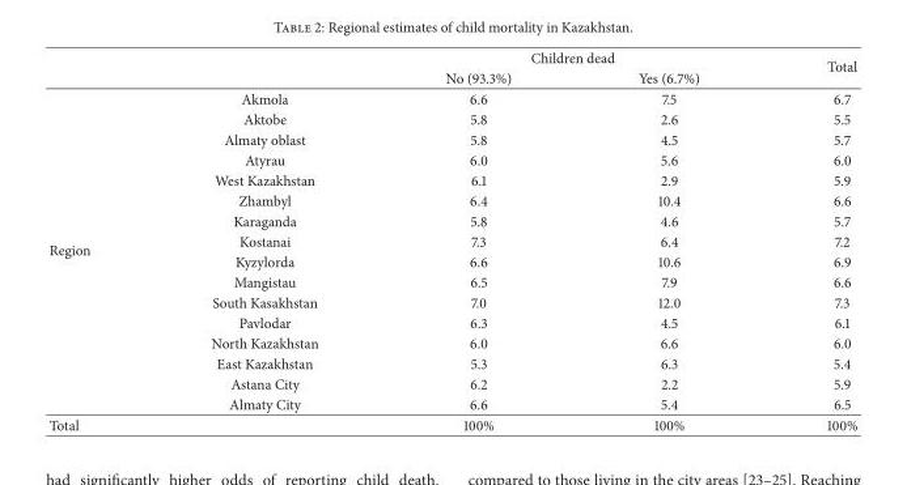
<table><thead><tr><td rowspan="2"></td><td rowspan="2"></td><td colspan="2">Children dead</td><td rowspan="2">Total</td></tr><tr><td>No (93.3%)</td><td>Yes (6.7%)</td></tr></thead><tbody><tr><td rowspan="16">Region</td><td>Akmola</td><td>6.6</td><td>7.5</td><td>6.7</td></tr><tr><td>Aktobe</td><td>5.8</td><td>2.6</td><td>5.5</td></tr><tr><td>Almaty oblast</td><td>5.8</td><td>4.5</td><td>5.7</td></tr><tr><td>Atyrau</td><td>6.0</td><td>5.6</td><td>6.0</td></tr><tr><td>West Kazakhstan</td><td>6.1</td><td>2.9</td><td>5.9</td></tr><tr><td>Zhambyl</td><td>6.4</td><td>10.4</td><td>6.6</td></tr><tr><td>Karaganda</td><td>5.8</td><td>4.6</td><td>5.7</td></tr><tr><td>Kostanai</td><td>7.3</td><td>6.4</td><td>7.2</td></tr><tr><td>Kyzylorda</td><td>6.6</td><td>10.6</td><td>6.9</td></tr><tr><td>Mangistau</td><td>6.5</td><td>7.9</td><td>6.6</td></tr><tr><td>South Kasakhstan</td><td>7.0</td><td>12.0</td><td>7.3</td></tr><tr><td>Pavlodar</td><td>6.3</td><td>4.5</td><td>6.1</td></tr><tr><td>North Kazakhstan</td><td>6.0</td><td>6.6</td><td>6.0</td></tr><tr><td>East Kazakhstan</td><td>5.3</td><td>6.3</td><td>5.4</td></tr><tr><td>Astana City</td><td>6.2</td><td>2.2</td><td>5.9</td></tr><tr><td>Almaty City</td><td>6.6</td><td>5.4</td><td>6.5</td></tr><tr><td>Total</td><td></td><td>100%</td><td>100%</td><td>100%</td></tr></tbody></table>